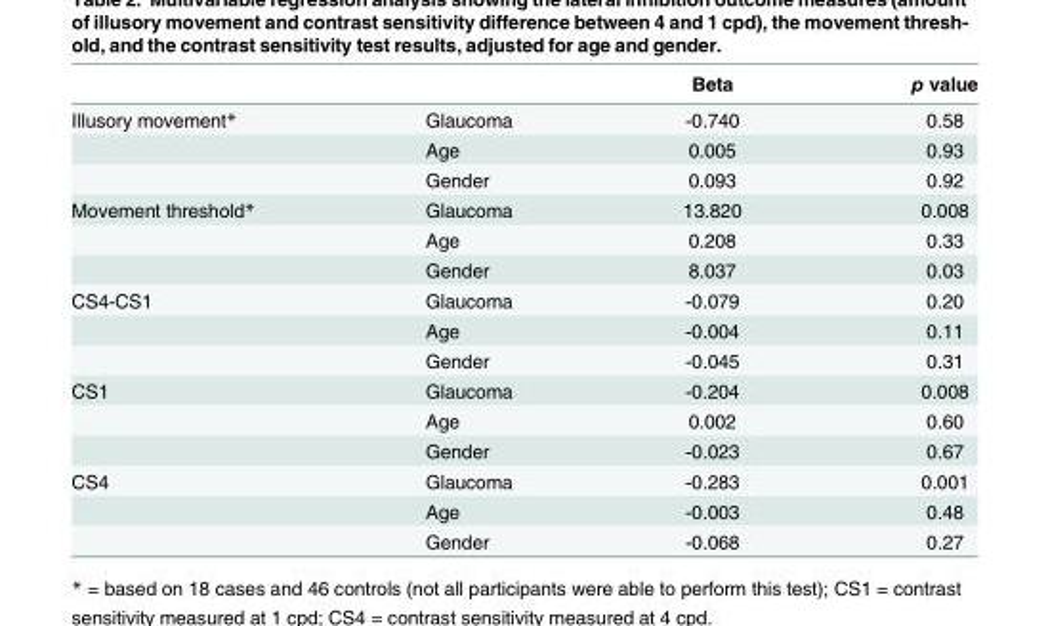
<table><thead><tr><td></td><td></td><td>Beta</td><td>p value</td></tr></thead><tbody><tr><td rowspan="3">Illusory movement*</td><td>Glaucoma</td><td>-0.740</td><td>0.58</td></tr><tr><td>Age</td><td>0.005</td><td>0.93</td></tr><tr><td>Gender</td><td>0.093</td><td>0.92</td></tr><tr><td rowspan="3">Movement threshold*</td><td>Glaucoma</td><td>13.820</td><td>0.008</td></tr><tr><td>Age</td><td>0.208</td><td>0.33</td></tr><tr><td>Gender</td><td>8.037</td><td>0.03</td></tr><tr><td rowspan="3">CS4-CS1</td><td>Glaucoma</td><td>-0.079</td><td>0.20</td></tr><tr><td>Age</td><td>-0.004</td><td>0.11</td></tr><tr><td>Gender</td><td>-0.045</td><td>0.31</td></tr><tr><td rowspan="3">CS1</td><td>Glaucoma</td><td>-0.204</td><td>0.008</td></tr><tr><td>Age</td><td>0.002</td><td>0.60</td></tr><tr><td>Gender</td><td>-0.023</td><td>0.67</td></tr><tr><td rowspan="3">CS4</td><td>Glaucoma</td><td>-0.283</td><td>0.001</td></tr><tr><td>Age</td><td>-0.003</td><td>0.48</td></tr><tr><td>Gender</td><td>-0.068</td><td>0.27</td></tr></tbody></table>